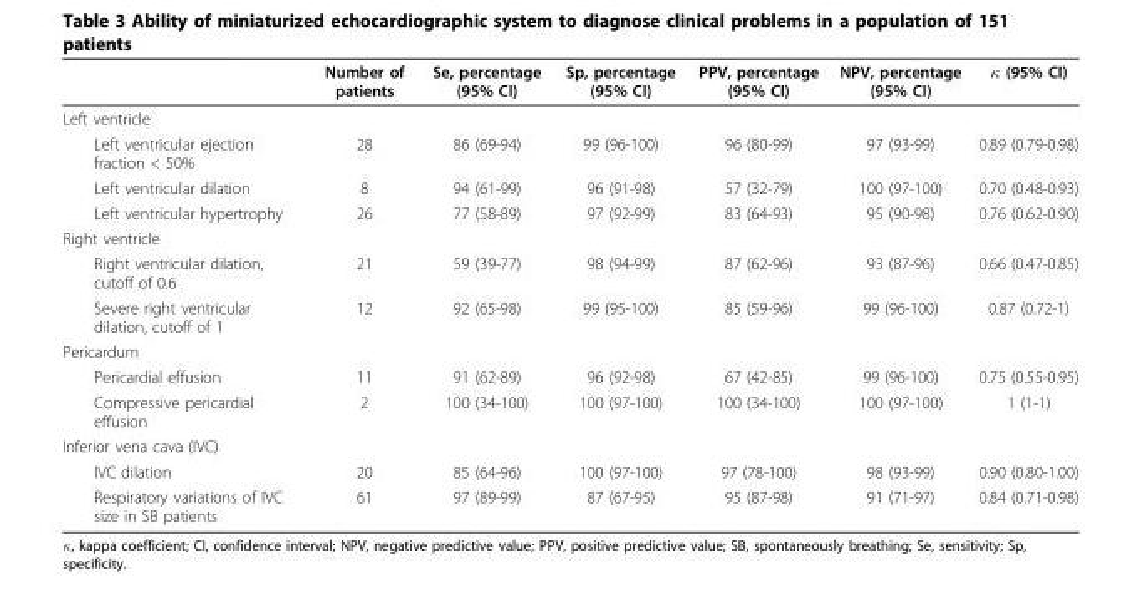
<table><thead><tr><td></td><td>Number of patients</td><td>Se, percentage (95% CI)</td><td>Sp, percentage (95% CI)</td><td>PPV, percentage (95% CI)</td><td>NPV, percentage (95% CI)</td><td>κ (95% CI)</td></tr></thead><tbody><tr><td colspan="7">Left ventricle</td></tr><tr><td>Left ventricular ejection fraction &lt; 50%</td><td>28</td><td>86 (69-94)</td><td>99 (96-100)</td><td>96 (80-99)</td><td>97 (93-99)</td><td>0.89 (0.79-0.98)</td></tr><tr><td>Left ventricular dilation</td><td>8</td><td>94 (61-99)</td><td>96 (91-98)</td><td>57 (32-79)</td><td>100 (97-100)</td><td>0.70 (0.48-0.93)</td></tr><tr><td>Left ventricular hypertrophy</td><td>26</td><td>77 (58-89)</td><td>97 (92-99)</td><td>83 (64-93)</td><td>95 (90-98)</td><td>0.76 (0.62-0.90)</td></tr><tr><td colspan="7">Right ventricle</td></tr><tr><td>Right ventricular dilation, cutoff of 0.6</td><td>21</td><td>59 (39-77)</td><td>98 (94-99)</td><td>87 (62-96)</td><td>93 (87-96)</td><td>0.66 (0.47-0.85)</td></tr><tr><td>Severe right ventricular dilation, cutoff of 1</td><td>12</td><td>92 (65-98)</td><td>99 (95-100)</td><td>85 (59-96)</td><td>99 (96-100)</td><td>0.87 (0.72-1)</td></tr><tr><td colspan="7">Pericardum</td></tr><tr><td>Pericardial effusion</td><td>11</td><td>91 (62-89)</td><td>96 (92-98)</td><td>67 (42-85)</td><td>99 (96-100)</td><td>0.75 (0.55-0.95)</td></tr><tr><td>Compressive pericardial effusion</td><td>2</td><td>100 (34-100)</td><td>100 (97-100)</td><td>100 (34-100)</td><td>100 (97-100)</td><td>1 (1-1)</td></tr><tr><td colspan="7">Inferior vena cava (IVC)</td></tr><tr><td>IVC dilation</td><td>20</td><td>85 (64-96)</td><td>100 (97-100)</td><td>97 (78-100)</td><td>98 (93-99)</td><td>0.90 (0.80-1.00)</td></tr><tr><td>Respiratory variations of IVC size in SB patients</td><td>61</td><td>97 (89-99)</td><td>87 (67-95)</td><td>95 (87-98)</td><td>91 (71-97)</td><td>0.84 (0.71-0.98)</td></tr></tbody></table>